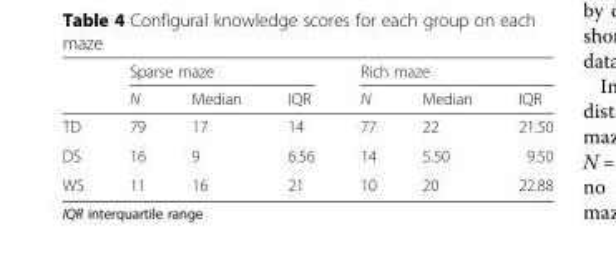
<table><thead><tr><td rowspan="2"></td><td colspan="3">Sparse maze</td><td colspan="3">Rich maze</td></tr><tr><td>N</td><td>Median</td><td>IQR</td><td>N</td><td>Median</td><td>IQR</td></tr></thead><tbody><tr><td>TD</td><td>79</td><td>17</td><td>14</td><td>77</td><td>22</td><td>21.50</td></tr><tr><td>DS</td><td>16</td><td>9</td><td>6.56</td><td>14</td><td>5.50</td><td>9.50</td></tr><tr><td>WS</td><td>11</td><td>16</td><td>21</td><td>10</td><td>20</td><td>22.88</td></tr></tbody></table>